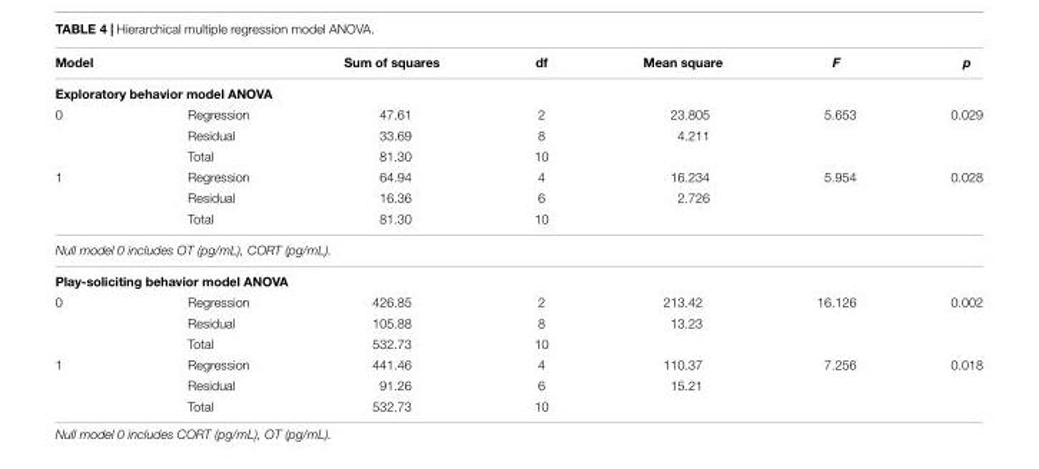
<table><thead><tr><td>Model</td><td></td><td>Sum of squares</td><td>df</td><td>Mean square</td><td>F</td><td>p</td></tr></thead><tbody><tr><td colspan="7">Exploratory behavior model ANOVA</td></tr><tr><td rowspan="3">0</td><td>Regression</td><td>47.61</td><td>2</td><td>23.805</td><td>5.653</td><td>0.029</td></tr><tr><td>Residual</td><td>33.69</td><td>8</td><td>4.211</td><td></td><td></td></tr><tr><td>Total</td><td>81.30</td><td>10</td><td></td><td></td><td></td></tr><tr><td rowspan="3">1</td><td>Regression</td><td>64.94</td><td>4</td><td>16.234</td><td>5.954</td><td>0.028</td></tr><tr><td>Residual</td><td>16.36</td><td>6</td><td>2.726</td><td></td><td></td></tr><tr><td>Total</td><td>81.30</td><td>10</td><td></td><td></td><td></td></tr><tr><td colspan="7">Null model 0 includes OT (pg/mL), CORT (pg/mL).</td></tr><tr><td colspan="7">Play-soliciting behavior model ANOVA</td></tr><tr><td rowspan="3">0</td><td>Regression</td><td>426.85</td><td>2</td><td>213.42</td><td>16.126</td><td>0.002</td></tr><tr><td>Residual</td><td>105.88</td><td>8</td><td>13.23</td><td></td><td></td></tr><tr><td>Total</td><td>532.73</td><td>10</td><td></td><td></td><td></td></tr><tr><td rowspan="3">1</td><td>Regression</td><td>441.46</td><td>4</td><td>110.37</td><td>7.256</td><td>0.018</td></tr><tr><td>Residual</td><td>91.26</td><td>6</td><td>15.21</td><td></td><td></td></tr><tr><td>Total</td><td>532.73</td><td>10</td><td></td><td></td><td></td></tr></tbody></table>